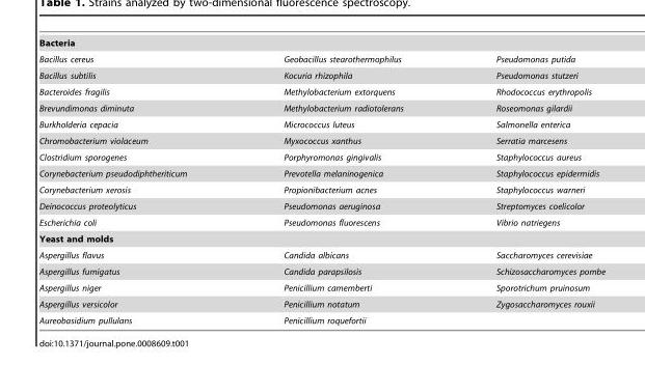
<table><tbody><tr><td colspan="3">Bacteria</td></tr><tr><td>Bacillus cereus</td><td>Geobacillus stearothermophilus</td><td>Pseudomonas putida</td></tr><tr><td>Bacillus subtilis</td><td>Kocuria rhizophila</td><td>Pseudomonas stutzeri</td></tr><tr><td>Bacteroides fragilis</td><td>Methylobacterium extorquens</td><td>Rhodococcus erythropolis</td></tr><tr><td>Brevundimonas diminuta</td><td>Methylobacterium radiotolerans</td><td>Roseomonas gilardii</td></tr><tr><td>Burkholderia cepacia</td><td>Micrococcus luteus</td><td>Salmonella enterica</td></tr><tr><td>Chromobacterium violaceum</td><td>Myxococcus xanthus</td><td>Serratia marcesens</td></tr><tr><td>Clostridium sporogenes</td><td>Porphyromonas gingivalis</td><td>Staphylococcus aureus</td></tr><tr><td>Corynebacterium pseudodiphtheriticum</td><td>Prevotella melaninogenica</td><td>Staphylococcus epidermidis</td></tr><tr><td>Corynebacterium xerosis</td><td>Propionibacterium acnes</td><td>Staphylococcus warneri</td></tr><tr><td>Deinococcus proteolyticus</td><td>Pseudomonas aeruginosa</td><td>Streptomyces coelicolor</td></tr><tr><td>Escherichia coli</td><td>Pseudomonas fluorescens</td><td>Vibrio natriegens</td></tr><tr><td colspan="3">Yeast and molds</td></tr><tr><td>Aspergillus flavus</td><td>Candida albicans</td><td>Saccharomyces cerevisiae</td></tr><tr><td>Aspergillus fumigatus</td><td>Candida parapsilosis</td><td>Schizosaccharomyces pombe</td></tr><tr><td>Aspergillus niger</td><td>Penicillium camemberti</td><td>Sporotrichum pruinosum</td></tr><tr><td>Aspergillus versicolor</td><td>Penicillium notatum</td><td>Zygosaccharomyces rouxii</td></tr><tr><td>Aureobasidium pullulans</td><td>Penicillium roquefortii</td><td></td></tr></tbody></table>